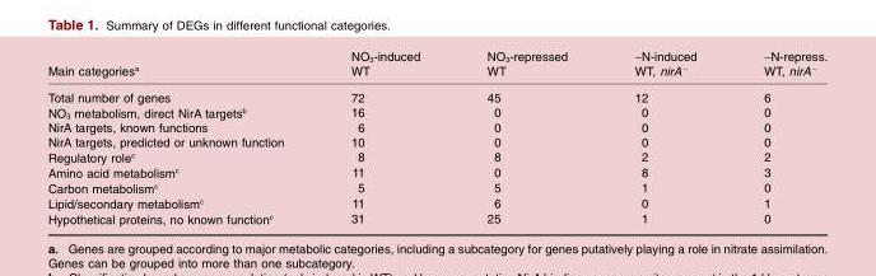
<table><thead><tr><td>Main categories<sup>a</sup></td><td>NO<sub>3</sub>-induced WT</td><td>NO<sub>3</sub>-repressed WT</td><td>-N-induced WT, nirA <sup>-</sup></td><td>-N-repress. WT, nirA <sup>-</sup></td></tr></thead><tbody><tr><td>Total number of genes</td><td>72</td><td>45</td><td>12</td><td>6</td></tr><tr><td>NO<sub>3</sub> metabolism, direct NirA targets<sup>b</sup></td><td>16</td><td>0</td><td>0</td><td>0</td></tr><tr><td>NirA targets, known functions</td><td>6</td><td>0</td><td>0</td><td>0</td></tr><tr><td>NirA targets, predicted or unknown function</td><td>10</td><td>0</td><td>0</td><td>0</td></tr><tr><td>Regulatory role<sup>c</sup></td><td>8</td><td>8</td><td>2</td><td>2</td></tr><tr><td>Amino acid metabolism<sup>c</sup></td><td>11</td><td>0</td><td>8</td><td>3</td></tr><tr><td>Carbon metabolism<sup>c</sup></td><td>5</td><td>5</td><td>1</td><td>0</td></tr><tr><td>Lipid/secondary metabolism<sup>c</sup></td><td>11</td><td>6</td><td>0</td><td>1</td></tr><tr><td>Hypothetical proteins, no known function<sup>c</sup></td><td>31</td><td>25</td><td>1</td><td>0</td></tr></tbody></table>